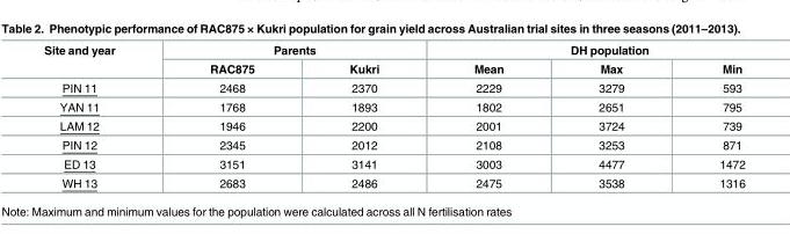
<table><thead><tr><td rowspan="2">Site and year</td><td colspan="2">Parents</td><td colspan="3">DH population</td></tr><tr><td>RAC875</td><td>Kukri</td><td>Mean</td><td>Max</td><td>Min</td></tr></thead><tbody><tr><td>PIN 11</td><td>2468</td><td>2370</td><td>2229</td><td>3279</td><td>593</td></tr><tr><td>YAN 11</td><td>1768</td><td>1893</td><td>1802</td><td>2651</td><td>795</td></tr><tr><td>LAM 12</td><td>1946</td><td>2200</td><td>2001</td><td>3724</td><td>739</td></tr><tr><td>PIN 12</td><td>2345</td><td>2012</td><td>2108</td><td>3253</td><td>871</td></tr><tr><td>ED 13</td><td>3151</td><td>3141</td><td>3003</td><td>4477</td><td>1472</td></tr><tr><td>WH 13</td><td>2683</td><td>2486</td><td>2475</td><td>3538</td><td>1316</td></tr></tbody></table>